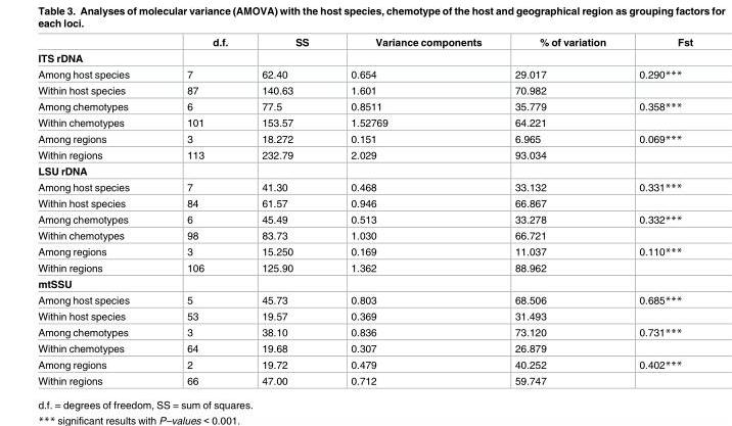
<table><thead><tr><td></td><td>d.f.</td><td>SS</td><td>Variance components</td><td>% of variation</td><td>Fst</td></tr></thead><tbody><tr><td colspan="6">ITS rDNA</td></tr><tr><td>Among host species</td><td>7</td><td>62.40</td><td>0.654</td><td>29.017</td><td>0.290***</td></tr><tr><td>Within host species</td><td>87</td><td>140.63</td><td>1.601</td><td>70.982</td><td></td></tr><tr><td>Among chemotypes</td><td>6</td><td>77.5</td><td>0.8511</td><td>35.779</td><td>0.358***</td></tr><tr><td>Within chemotypes</td><td>101</td><td>153.57</td><td>1.52769</td><td>64.221</td><td></td></tr><tr><td>Among regions</td><td>3</td><td>18.272</td><td>0.151</td><td>6.965</td><td>0.069***</td></tr><tr><td>Within regions</td><td>113</td><td>232.79</td><td>2.029</td><td>93.034</td><td></td></tr><tr><td colspan="6">LSU rDNA</td></tr><tr><td>Among host species</td><td>7</td><td>41.30</td><td>0.468</td><td>33.132</td><td>0.331***</td></tr><tr><td>Within host species</td><td>84</td><td>61.57</td><td>0.946</td><td>66.867</td><td></td></tr><tr><td>Among chemotypes</td><td>6</td><td>45.49</td><td>0.513</td><td>33.278</td><td>0.332***</td></tr><tr><td>Within chemotypes</td><td>98</td><td>83.73</td><td>1.030</td><td>66.721</td><td></td></tr><tr><td>Among regions</td><td>3</td><td>15.250</td><td>0.169</td><td>11.037</td><td>0.110***</td></tr><tr><td>Within regions</td><td>106</td><td>125.90</td><td>1.362</td><td>88.962</td><td></td></tr><tr><td colspan="6">mtSSU</td></tr><tr><td>Among host species</td><td>5</td><td>45.73</td><td>0.803</td><td>68.506</td><td>0.685***</td></tr><tr><td>Within host species</td><td>53</td><td>19.57</td><td>0.369</td><td>31.493</td><td></td></tr><tr><td>Among chemotypes</td><td>3</td><td>38.10</td><td>0.836</td><td>73.120</td><td>0.731***</td></tr><tr><td>Within chemotypes</td><td>64</td><td>19.68</td><td>0.307</td><td>26.879</td><td></td></tr><tr><td>Among regions</td><td>2</td><td>19.72</td><td>0.479</td><td>40.252</td><td>0.402***</td></tr><tr><td>Within regions</td><td>66</td><td>47.00</td><td>0.712</td><td>59.747</td><td></td></tr></tbody></table>